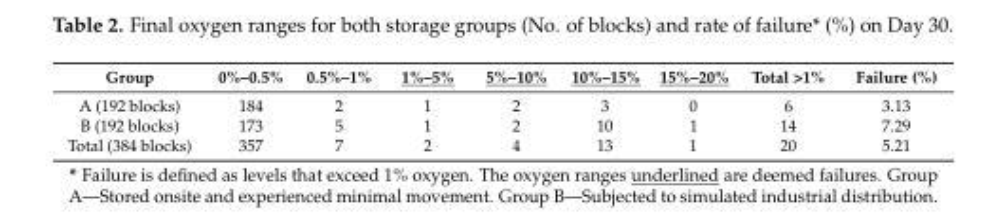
<table><thead><tr><td>Group</td><td>0%–0.5%</td><td>0.5%–1%</td><td>1%–5%</td><td>5%–10%</td><td>10%–15%</td><td>15%–20%</td><td>Total &gt;1%</td><td>Failure (%)</td></tr></thead><tbody><tr><td>A (192 blocks)</td><td>184</td><td>2</td><td>1</td><td>2</td><td>3</td><td>0</td><td>6</td><td>3.13</td></tr><tr><td>B (192 blocks)</td><td>173</td><td>5</td><td>1</td><td>2</td><td>10</td><td>1</td><td>14</td><td>7.29</td></tr><tr><td>Total (384 blocks)</td><td>357</td><td>7</td><td>2</td><td>4</td><td>13</td><td>1</td><td>20</td><td>5.21</td></tr></tbody></table>